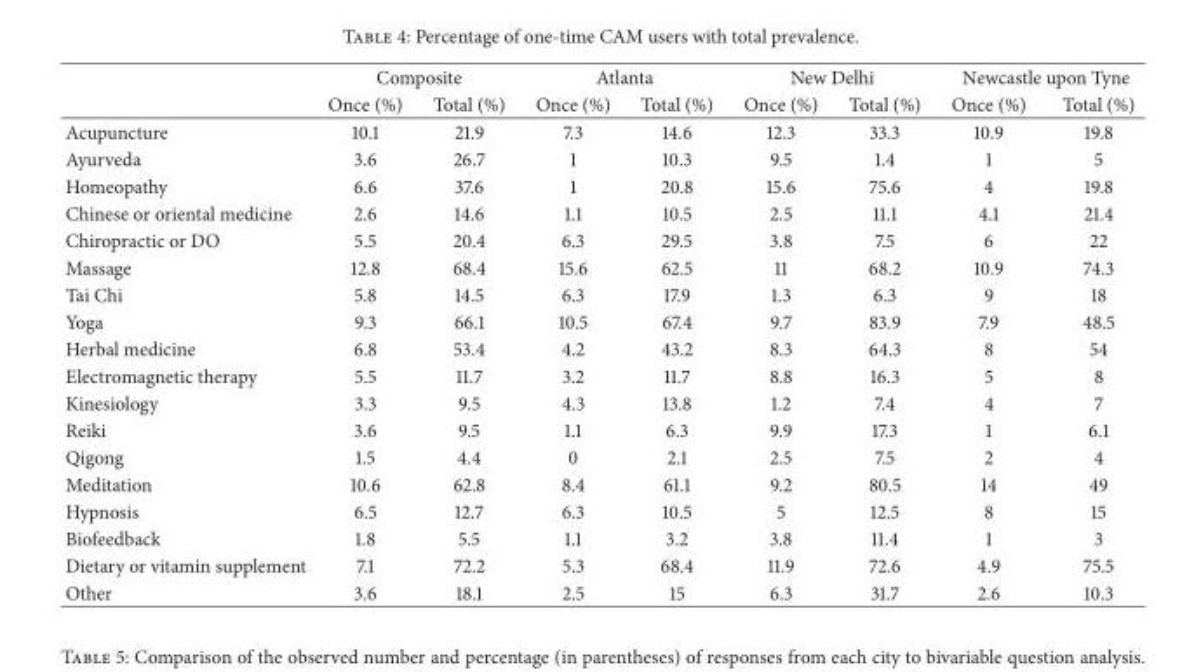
<table><thead><tr><td rowspan="2"></td><td colspan="2">Composite</td><td colspan="2">Atlanta</td><td colspan="2">New Delhi</td><td colspan="2">Newcastle upon Tyne</td></tr><tr><td>Once (%)</td><td>Total (%)</td><td>Once (%)</td><td>Total (%)</td><td>Once (%)</td><td>Total (%)</td><td>Once (%)</td><td>Total (%)</td></tr></thead><tbody><tr><td>Acupuncture</td><td>10.1</td><td>21.9</td><td>7.3</td><td>14.6</td><td>12.3</td><td>33.3</td><td>10.9</td><td>19.8</td></tr><tr><td>Ayurveda</td><td>3.6</td><td>26.7</td><td>1</td><td>10.3</td><td>9.5</td><td>1.4</td><td>1</td><td>5</td></tr><tr><td>Homeopathy</td><td>6.6</td><td>37.6</td><td>1</td><td>20.8</td><td>15.6</td><td>75.6</td><td>4</td><td>19.8</td></tr><tr><td>Chinese or oriental medicine</td><td>2.6</td><td>14.6</td><td>1.1</td><td>10.5</td><td>2.5</td><td>11.1</td><td>4.1</td><td>21.4</td></tr><tr><td>Chiropractic or DO</td><td>5.5</td><td>20.4</td><td>6.3</td><td>29.5</td><td>3.8</td><td>7.5</td><td>6</td><td>22</td></tr><tr><td>Massage</td><td>12.8</td><td>68.4</td><td>15.6</td><td>62.5</td><td>11</td><td>68.2</td><td>10.9</td><td>74.3</td></tr><tr><td>Tai Chi</td><td>5.8</td><td>14.5</td><td>6.3</td><td>17.9</td><td>1.3</td><td>6.3</td><td>9</td><td>18</td></tr><tr><td>Yoga</td><td>9.3</td><td>66.1</td><td>10.5</td><td>67.4</td><td>9.7</td><td>83.9</td><td>7.9</td><td>48.5</td></tr><tr><td>Herbal medicine</td><td>6.8</td><td>53.4</td><td>4.2</td><td>43.2</td><td>8.3</td><td>64.3</td><td>8</td><td>54</td></tr><tr><td>Electromagnetic therapy</td><td>5.5</td><td>11.7</td><td>3.2</td><td>11.7</td><td>8.8</td><td>16.3</td><td>5</td><td>8</td></tr><tr><td>Kinesiology</td><td>3.3</td><td>9.5</td><td>4.3</td><td>13.8</td><td>1.2</td><td>7.4</td><td>4</td><td>7</td></tr><tr><td>Reiki</td><td>3.6</td><td>9.5</td><td>1.1</td><td>6.3</td><td>9.9</td><td>17.3</td><td>1</td><td>6.1</td></tr><tr><td>Qigong</td><td>1.5</td><td>4.4</td><td>0</td><td>2.1</td><td>2.5</td><td>7.5</td><td>2</td><td>4</td></tr><tr><td>Meditation</td><td>10.6</td><td>62.8</td><td>8.4</td><td>61.1</td><td>9.2</td><td>80.5</td><td>14</td><td>49</td></tr><tr><td>Hypnosis</td><td>6.5</td><td>12.7</td><td>6.3</td><td>10.5</td><td>5</td><td>12.5</td><td>8</td><td>15</td></tr><tr><td>Biofeedback</td><td>1.8</td><td>5.5</td><td>1.1</td><td>3.2</td><td>3.8</td><td>11.4</td><td>1</td><td>3</td></tr><tr><td>Dietary or vitamin supplement</td><td>7.1</td><td>72.2</td><td>5.3</td><td>68.4</td><td>11.9</td><td>72.6</td><td>4.9</td><td>75.5</td></tr><tr><td>Other</td><td>3.6</td><td>18.1</td><td>2.5</td><td>15</td><td>6.3</td><td>31.7</td><td>2.6</td><td>10.3</td></tr></tbody></table>